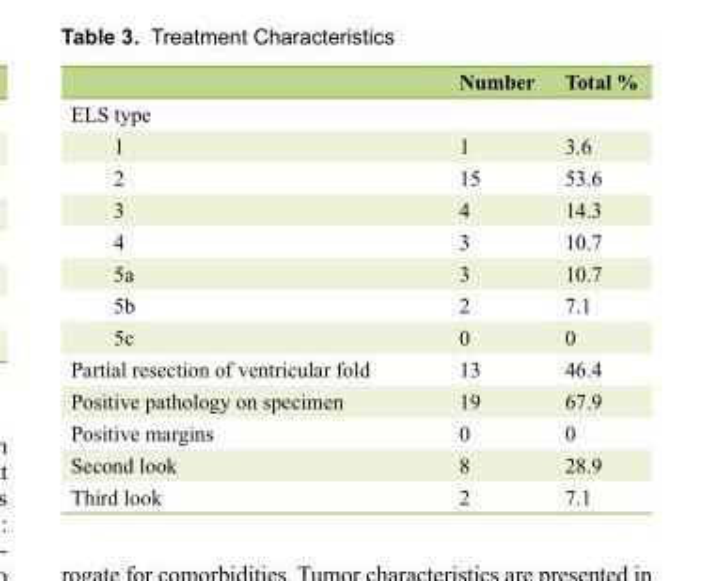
<table><thead><tr><td></td><td>Number</td><td>Total %</td></tr></thead><tbody><tr><td colspan="3">ELS type</td></tr><tr><td>1</td><td>1</td><td>3.6</td></tr><tr><td>2</td><td>15</td><td>53.6</td></tr><tr><td>3</td><td>4</td><td>14.3</td></tr><tr><td>4</td><td>3</td><td>10.7</td></tr><tr><td>5a</td><td>3</td><td>10.7</td></tr><tr><td>5b</td><td>2</td><td>7.1</td></tr><tr><td>5c</td><td>0</td><td>0</td></tr><tr><td>Partial resection of ventricular fold</td><td>13</td><td>46.4</td></tr><tr><td>Positive pathology on specimen</td><td>19</td><td>67.9</td></tr><tr><td>Positive margins</td><td>0</td><td>0</td></tr><tr><td>Second look</td><td>8</td><td>28.9</td></tr><tr><td>Third look</td><td>2</td><td>7.1</td></tr></tbody></table>